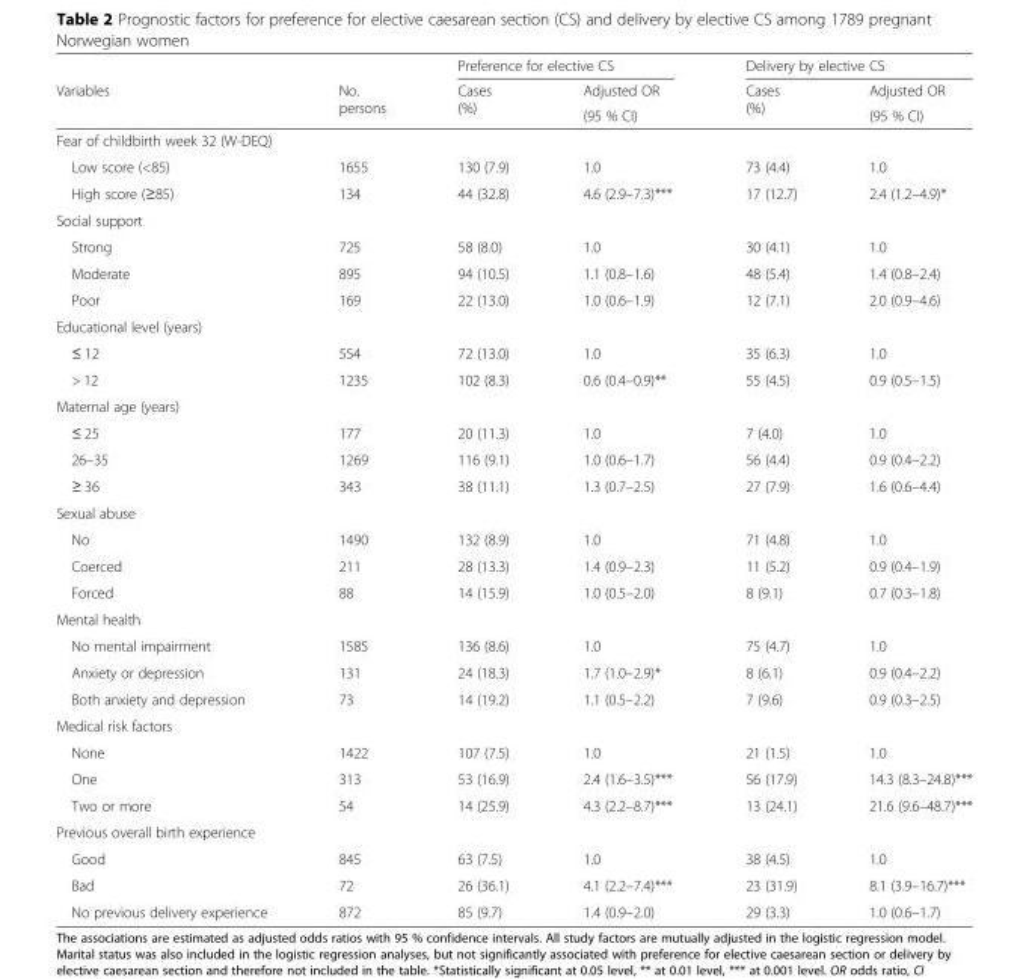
<table><thead><tr><td rowspan="3">Variables</td><td rowspan="3">No. persons</td><td colspan="2">Preference for elective CS</td><td colspan="2">Delivery by elective CS</td></tr><tr><td rowspan="2">Cases (%)</td><td rowspan="2">Adjusted OR (95 % CI)</td><td rowspan="2">Cases (%)</td><td rowspan="2">Adjusted OR (95 % CI)</td></tr><tr></tr></thead><tbody><tr><td colspan="6">Fear of childbirth week 32 (W-DEQ)</td></tr><tr><td>Low score (&lt;85)</td><td>1655</td><td>130 (7.9)</td><td>1.0</td><td>73 (4.4)</td><td>1.0</td></tr><tr><td>High score (≥85)</td><td>134</td><td>44 (32.8)</td><td>4.6 (2.9–7.3)***</td><td>17 (12.7)</td><td>2.4 (1.2–4.9)*</td></tr><tr><td colspan="6">Social support</td></tr><tr><td>Strong</td><td>725</td><td>58 (8.0)</td><td>1.0</td><td>30 (4.1)</td><td>1.0</td></tr><tr><td>Moderate</td><td>895</td><td>94 (10.5)</td><td>1.1 (0.8–1.6)</td><td>48 (5.4)</td><td>1.4 (0.8–2.4)</td></tr><tr><td>Poor</td><td>169</td><td>22 (13.0)</td><td>1.0 (0.6–1.9)</td><td>12 (7.1)</td><td>2.0 (0.9–4.6)</td></tr><tr><td colspan="6">Educational level (years)</td></tr><tr><td>≤ 12</td><td>554</td><td>72 (13.0)</td><td>1.0</td><td>35 (6.3)</td><td>1.0</td></tr><tr><td>&gt; 12</td><td>1235</td><td>102 (8.3)</td><td>0.6 (0.4–0.9)**</td><td>55 (4.5)</td><td>0.9 (0.5–1.5)</td></tr><tr><td colspan="6">Maternal age (years)</td></tr><tr><td>≤ 25</td><td>177</td><td>20 (11.3)</td><td>1.0</td><td>7 (4.0)</td><td>1.0</td></tr><tr><td>26–35</td><td>1269</td><td>116 (9.1)</td><td>1.0 (0.6–1.7)</td><td>56 (4.4)</td><td>0.9 (0.4–2.2)</td></tr><tr><td>≥ 36</td><td>343</td><td>38 (11.1)</td><td>1.3 (0.7–2.5)</td><td>27 (7.9)</td><td>1.6 (0.6–4.4)</td></tr><tr><td colspan="6">Sexual abuse</td></tr><tr><td>No</td><td>1490</td><td>132 (8.9)</td><td>1.0</td><td>71 (4.8)</td><td>1.0</td></tr><tr><td>Coerced</td><td>211</td><td>28 (13.3)</td><td>1.4 (0.9–2.3)</td><td>11 (5.2)</td><td>0.9 (0.4–1.9)</td></tr><tr><td>Forced</td><td>88</td><td>14 (15.9)</td><td>1.0 (0.5–2.0)</td><td>8 (9.1)</td><td>0.7 (0.3–1.8)</td></tr><tr><td colspan="6">Mental health</td></tr><tr><td>No mental impairment</td><td>1585</td><td>136 (8.6)</td><td>1.0</td><td>75 (4.7)</td><td>1.0</td></tr><tr><td>Anxiety or depression</td><td>131</td><td>24 (18.3)</td><td>1.7 (1.0–2.9)*</td><td>8 (6.1)</td><td>0.9 (0.4–2.2)</td></tr><tr><td>Both anxiety and depression</td><td>73</td><td>14 (19.2)</td><td>1.1 (0.5–2.2)</td><td>7 (9.6)</td><td>0.9 (0.3–2.5)</td></tr><tr><td colspan="6">Medical risk factors</td></tr><tr><td>None</td><td>1422</td><td>107 (7.5)</td><td>1.0</td><td>21 (1.5)</td><td>1.0</td></tr><tr><td>One</td><td>313</td><td>53 (16.9)</td><td>2.4 (1.6–3.5)***</td><td>56 (17.9)</td><td>14.3 (8.3–24.8)***</td></tr><tr><td>Two or more</td><td>54</td><td>14 (25.9)</td><td>4.3 (2.2–8.7)***</td><td>13 (24.1)</td><td>21.6 (9.6–48.7)***</td></tr><tr><td colspan="6">Previous overall birth experience</td></tr><tr><td>Good</td><td>845</td><td>63 (7.5)</td><td>1.0</td><td>38 (4.5)</td><td>1.0</td></tr><tr><td>Bad</td><td>72</td><td>26 (36.1)</td><td>4.1 (2.2–7.4)***</td><td>23 (31.9)</td><td>8.1 (3.9–16.7)***</td></tr><tr><td>No previous delivery experience</td><td>872</td><td>85 (9.7)</td><td>1.4 (0.9–2.0)</td><td>29 (3.3)</td><td>1.0 (0.6–1.7)</td></tr></tbody></table>